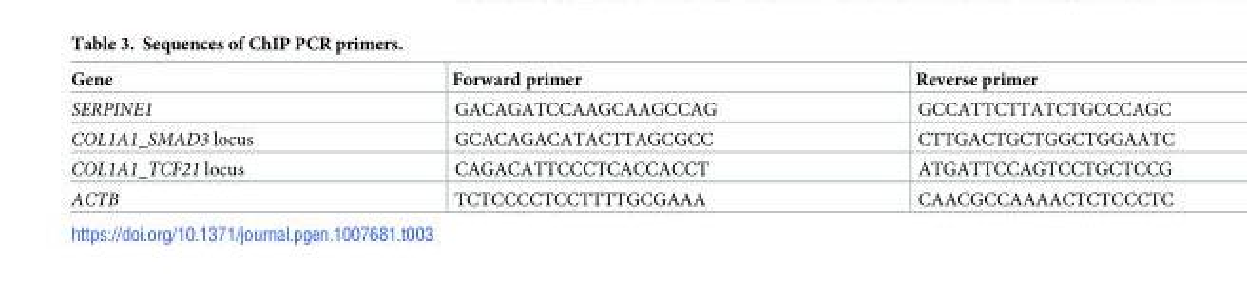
<table><thead><tr><td>Gene</td><td>Forward primer</td><td>Reverse primer</td></tr></thead><tbody><tr><td>SERPINE1</td><td>GACAGATCCAAGCAAGCCAG</td><td>GCCATTCTTATCTGCCCAGC</td></tr><tr><td>COL1A1_SMAD3 locus</td><td>GCACAGACATACTTAGCGCC</td><td>CTTGACTGCTGGCTGGAATC</td></tr><tr><td>COL1A1_TCF21 locus</td><td>CAGACATTCCCTCACCACCT</td><td>ATGATTCCAGTCCTGCTCCG</td></tr><tr><td>ACTB</td><td>TCTCCCCTCCTTTTGCGAAA</td><td>CAACGCCAAAACTCTCCCTC</td></tr></tbody></table>